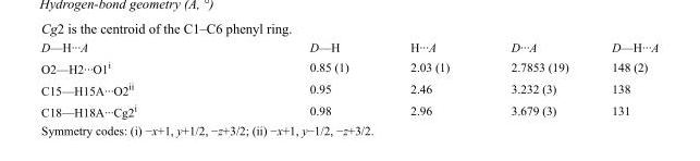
<table><tbody><tr><td>D—H···A</td><td>D—H</td><td>H···A</td><td>D···A</td><td>D—H···A</td></tr><tr><td>O2—H2···O1<sup>i</sup></td><td>0.85 (1)</td><td>2.03 (1)</td><td>2.7853 (19)</td><td>148 (2)</td></tr><tr><td>C15—H15A···O2<sup>ii</sup></td><td>0.95</td><td>2.46</td><td>3.232 (3)</td><td>138</td></tr><tr><td>C18—H18A···Cg2<sup>i</sup></td><td>0.98</td><td>2.96</td><td>3.679 (3)</td><td>131</td></tr></tbody></table>